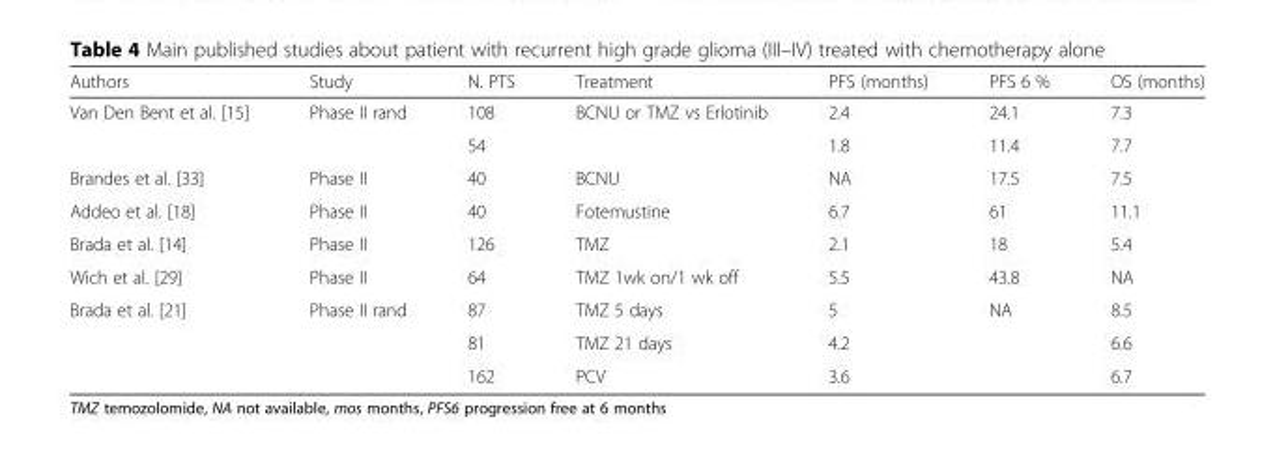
<table><thead><tr><td>Authors</td><td>Study</td><td>N. PTS</td><td>Treatment</td><td>PFS (months)</td><td>PFS 6 %</td><td>OS (months)</td></tr></thead><tbody><tr><td rowspan="2">Van Den Bent et al. [15]</td><td rowspan="2">Phase II rand</td><td>108</td><td rowspan="2">BCNU or TMZ vs Erlotinib</td><td>2.4</td><td>24.1</td><td>7.3</td></tr><tr><td>54</td><td>1.8</td><td>11.4</td><td>7.7</td></tr><tr><td>Brandes et al. [33]</td><td>Phase II</td><td>40</td><td>BCNU</td><td>NA</td><td>17.5</td><td>7.5</td></tr><tr><td>Addeo et al. [18]</td><td>Phase II</td><td>40</td><td>Fotemustine</td><td>6.7</td><td>61</td><td>11.1</td></tr><tr><td>Brada et al. [14]</td><td>Phase II</td><td>126</td><td>TMZ</td><td>2.1</td><td>18</td><td>5.4</td></tr><tr><td>Wich et al. [29]</td><td>Phase II</td><td>64</td><td>TMZ 1wk on/1 wk off</td><td>5.5</td><td>43.8</td><td>NA</td></tr><tr><td rowspan="3">Brada et al. [21]</td><td rowspan="3">Phase II rand</td><td>87</td><td>TMZ 5 days</td><td>5</td><td rowspan="3">NA</td><td>8.5</td></tr><tr><td>81</td><td>TMZ 21 days</td><td>4.2</td><td>6.6</td></tr><tr><td>162</td><td>PCV</td><td>3.6</td><td>6.7</td></tr></tbody></table>